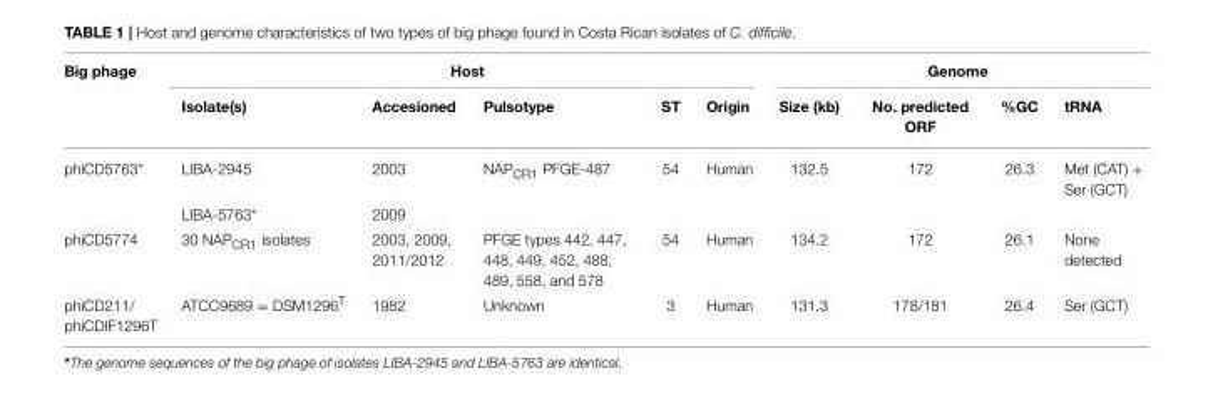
<table><thead><tr><td rowspan="2">Big phage</td><td colspan="5">Host</td><td colspan="4">Genome</td></tr><tr><td>Isolate(s)</td><td>Accesioned</td><td>Pulsotype</td><td>ST</td><td>Origin</td><td>Size (kb)</td><td>No. predicted ORF</td><td>%GC</td><td>tRNA</td></tr></thead><tbody><tr><td rowspan="2">phiCD5763*</td><td>LIBA-2945</td><td>2003</td><td>NAP<sub>CR1</sub> PFGE-487</td><td>54</td><td>Human</td><td>132.5</td><td>172</td><td>26.3</td><td>Met (CAT) + Ser (GCT)</td></tr><tr><td>LIBA-5763*</td><td>2009</td><td></td><td></td><td></td><td></td><td></td><td></td><td></td></tr><tr><td>phiCD5774</td><td>30 NAP<sub>CR1</sub> isolates</td><td>2003, 2009, 2011/2012</td><td>PFGE types 442, 447, 448, 449, 452, 488, 489, 558, and 578</td><td>54</td><td>Human</td><td>134.2</td><td>172</td><td>26.1</td><td>None detected</td></tr><tr><td>phiCD211/ phiCDIF1296T</td><td>ATCC9689 = DSM1296<sup>T</sup></td><td>1982</td><td>Unknown</td><td>3</td><td>Human</td><td>131.3</td><td>178/181</td><td>26.4</td><td>Ser (GCT)</td></tr></tbody></table>